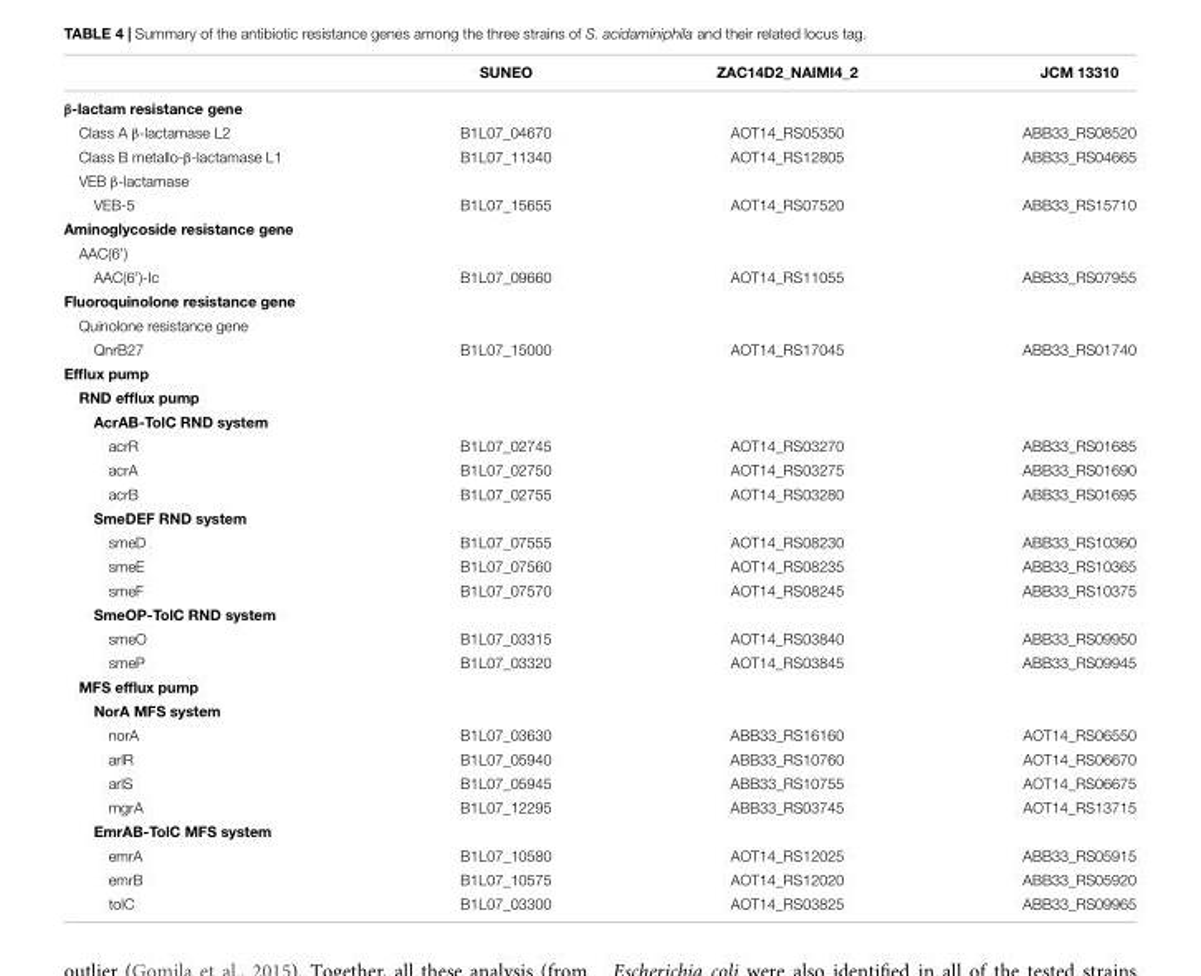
<table><thead><tr><td></td><td>SUNEO</td><td>ZAC14D2_NAIMI4_2</td><td>JCM 13310</td></tr></thead><tbody><tr><td colspan="4">β-lactam resistance gene</td></tr><tr><td>Class A β-lactamase L2</td><td>B1L07_04670</td><td>AOT14_RS05350</td><td>ABB33_RS08520</td></tr><tr><td>Class B metallo-β-lactamase L1</td><td>B1L07_11340</td><td>AOT14_RS12805</td><td>ABB33_RS04665</td></tr><tr><td colspan="4">VEB β-lactamase</td></tr><tr><td>VEB-5</td><td>B1L07_15655</td><td>AOT14_RS07520</td><td>ABB33_RS15710</td></tr><tr><td colspan="4">Aminoglycoside resistance gene</td></tr><tr><td colspan="4">AAC(6′)</td></tr><tr><td>AAC(6′)-Ic</td><td>B1L07_09660</td><td>AOT14_RS11055</td><td>ABB33_RS07955</td></tr><tr><td colspan="4">Fluoroquinolone resistance gene</td></tr><tr><td colspan="4">Quinolone resistance gene</td></tr><tr><td>QnrB27</td><td>B1L07_15000</td><td>AOT14_RS17045</td><td>ABB33_RS01740</td></tr><tr><td colspan="4">Efflux pump</td></tr><tr><td colspan="4">RND efflux pump</td></tr><tr><td colspan="4">AcrAB-TolC RND system</td></tr><tr><td>acrR</td><td>B1L07_02745</td><td>AOT14_RS03270</td><td>ABB33_RS01685</td></tr><tr><td>acrA</td><td>B1L07_02750</td><td>AOT14_RS03275</td><td>ABB33_RS01690</td></tr><tr><td>acrB</td><td>B1L07_02755</td><td>AOT14_RS03280</td><td>ABB33_RS01695</td></tr><tr><td colspan="4">SmeDEF RND system</td></tr><tr><td>smeD</td><td>B1L07_07555</td><td>AOT14_RS08230</td><td>ABB33_RS10360</td></tr><tr><td>smeE</td><td>B1L07_07560</td><td>AOT14_RS08235</td><td>ABB33_RS10365</td></tr><tr><td>smeF</td><td>B1L07_07570</td><td>AOT14_RS08245</td><td>ABB33_RS10375</td></tr><tr><td colspan="4">SmeOP-TolC RND system</td></tr><tr><td>smeO</td><td>B1L07_03315</td><td>AOT14_RS03840</td><td>ABB33_RS09950</td></tr><tr><td>smeP</td><td>B1L07_03320</td><td>AOT14_RS03845</td><td>ABB33_RS09945</td></tr><tr><td colspan="4">MFS efflux pump</td></tr><tr><td colspan="4">NorA MFS system</td></tr><tr><td>norA</td><td>B1L07_03630</td><td>ABB33_RS16160</td><td>AOT14_RS06550</td></tr><tr><td>arlR</td><td>B1L07_05940</td><td>ABB33_RS10760</td><td>AOT14_RS06670</td></tr><tr><td>arlS</td><td>B1L07_05945</td><td>ABB33_RS10755</td><td>AOT14_RS06675</td></tr><tr><td>mgrA</td><td>B1L07_12295</td><td>ABB33_RS03745</td><td>AOT14_RS13715</td></tr><tr><td colspan="4">EmrAB-TolC MFS system</td></tr><tr><td>emrA</td><td>B1L07_10580</td><td>AOT14_RS12025</td><td>ABB33_RS05915</td></tr><tr><td>emrB</td><td>B1L07_10575</td><td>AOT14_RS12020</td><td>ABB33_RS05920</td></tr><tr><td>tolC</td><td>B1L07_03300</td><td>AOT14_RS03825</td><td>ABB33_RS09965</td></tr></tbody></table>